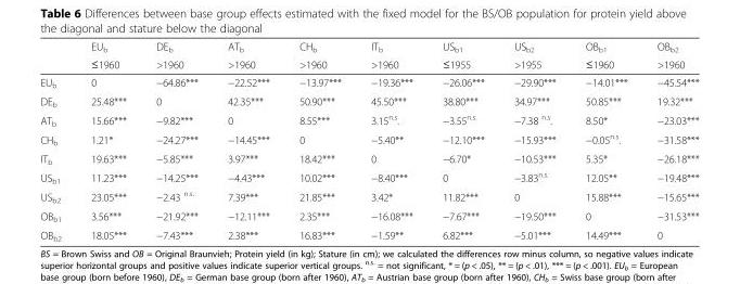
<table><thead><tr><td rowspan="2"></td><td rowspan="2">EUb ≤1960</td><td rowspan="2">DEb &gt;1960</td><td rowspan="2">ATb &gt;1960</td><td rowspan="2">CHb &gt;1960</td><td rowspan="2">ITb &gt;1960</td><td rowspan="2">USb1 ≤1955</td><td rowspan="2">USb2 &gt;1955</td><td rowspan="2">OBb1 ≤1960</td><td rowspan="2">OBb2 &gt;1960</td></tr><tr></tr></thead><tbody><tr><td>EU<sub>b</sub></td><td>0</td><td>−64.86***</td><td>−22.52***</td><td>−13.97***</td><td>−19.36***</td><td>−26.06***</td><td>−29.90***</td><td>−14.01***</td><td>−45.54***</td></tr><tr><td>DE<sub>b</sub></td><td>25.48***</td><td>0</td><td>42.35***</td><td>50.90***</td><td>45.50***</td><td>38.80***</td><td>34.97***</td><td>50.85***</td><td>19.32***</td></tr><tr><td>AT<sub>b</sub></td><td>15.66***</td><td>−9.82***</td><td>0</td><td>8.55***</td><td>3.15<sup>n.s</sup>.</td><td>−3.55<sup>n.s.</sup></td><td>−7.38 <sup>n.s</sup>.</td><td>8.50*</td><td>−23.03***</td></tr><tr><td>CH<sub>b</sub></td><td>1.21*</td><td>−24.27***</td><td>−14.45***</td><td>0</td><td>−5.40**</td><td>−12.10***</td><td>−15.93***</td><td>−0.05<sup>n.s</sup>.</td><td>−31.58***</td></tr><tr><td>IT<sub>b</sub></td><td>19.63***</td><td>−5.85***</td><td>3.97***</td><td>18.42***</td><td>0</td><td>−6.70*</td><td>−10.53***</td><td>5.35*</td><td>−26.18***</td></tr><tr><td>US<sub>b1</sub></td><td>11.23***</td><td>−14.25***</td><td>−4.43***</td><td>10.02***</td><td>−8.40***</td><td>0</td><td>−3.83<sup>n.s.</sup></td><td>12.05**</td><td>−19.48***</td></tr><tr><td>US<sub>b2</sub></td><td>23.05***</td><td>−2.43 <sup>n.s.</sup></td><td>7.39***</td><td>21.85***</td><td>3.42*</td><td>11.82***</td><td>0</td><td>15.88***</td><td>−15.65***</td></tr><tr><td>OB<sub>b1</sub></td><td>3.56***</td><td>−21.92***</td><td>−12.11***</td><td>2.35***</td><td>−16.08***</td><td>−7.67***</td><td>−19.50***</td><td>0</td><td>−31.53***</td></tr><tr><td>OB<sub>b2</sub></td><td>18.05***</td><td>−7.43***</td><td>2.38***</td><td>16.83***</td><td>−1.59**</td><td>6.82***</td><td>−5.01***</td><td>14.49***</td><td>0</td></tr></tbody></table>